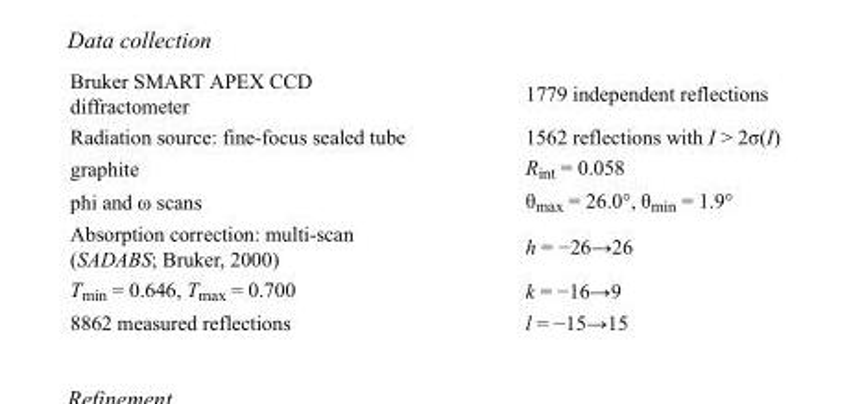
<table><tbody><tr><td>Bruker SMART APEX CCD diffractometer</td><td>1779 independent reflections</td></tr><tr><td>Radiation source: fine-focus sealed tube</td><td>1562 reflections with I &gt; 2σ(I)</td></tr><tr><td>graphite</td><td>R<sub>int</sub> = 0.058</td></tr><tr><td>phi and ω scans</td><td>θ<sub>max</sub> = 26.0°, θ<sub>min</sub> = 1.9°</td></tr><tr><td>Absorption correction: multi-scan (SADABS; Bruker, 2000)</td><td>h = −26→26</td></tr><tr><td>T<sub>min</sub> = 0.646, T<sub>max</sub> = 0.700</td><td>k = −16→9</td></tr><tr><td>8862 measured reflections</td><td>l = −15→15</td></tr></tbody></table>